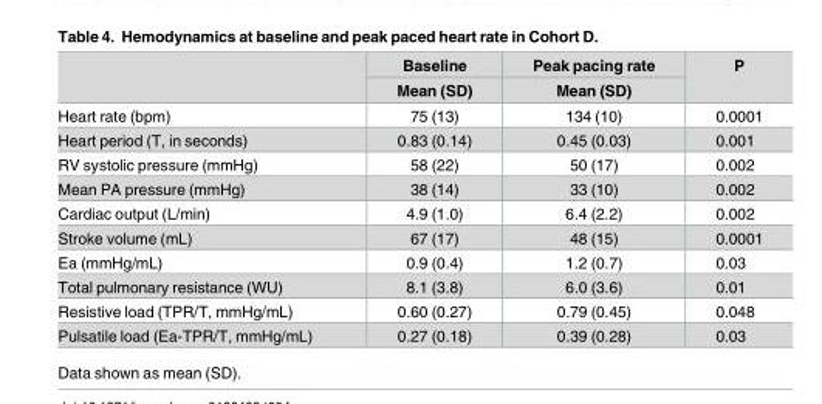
<table><thead><tr><td rowspan="2"></td><td rowspan="2">Baseline Mean (SD)</td><td rowspan="2">Peak pacing rate Mean (SD)</td><td rowspan="2">P</td></tr><tr></tr></thead><tbody><tr><td>Heart rate (bpm)</td><td>75 (13)</td><td>134 (10)</td><td>0.0001</td></tr><tr><td>Heart period (T, in seconds)</td><td>0.83 (0.14)</td><td>0.45 (0.03)</td><td>0.001</td></tr><tr><td>RV systolic pressure (mmHg)</td><td>58 (22)</td><td>50 (17)</td><td>0.002</td></tr><tr><td>Mean PA pressure (mmHg)</td><td>38 (14)</td><td>33 (10)</td><td>0.002</td></tr><tr><td>Cardiac output (L/min)</td><td>4.9 (1.0)</td><td>6.4 (2.2)</td><td>0.002</td></tr><tr><td>Stroke volume (mL)</td><td>67 (17)</td><td>48 (15)</td><td>0.0001</td></tr><tr><td>Ea (mmHg/mL)</td><td>0.9 (0.4)</td><td>1.2 (0.7)</td><td>0.03</td></tr><tr><td>Total pulmonary resistance (WU)</td><td>8.1 (3.8)</td><td>6.0 (3.6)</td><td>0.01</td></tr><tr><td>Resistive load (TPR/T, mmHg/mL)</td><td>0.60 (0.27)</td><td>0.79 (0.45)</td><td>0.048</td></tr><tr><td>Pulsatile load (Ea-TPR/T, mmHg/mL)</td><td>0.27 (0.18)</td><td>0.39 (0.28)</td><td>0.03</td></tr></tbody></table>